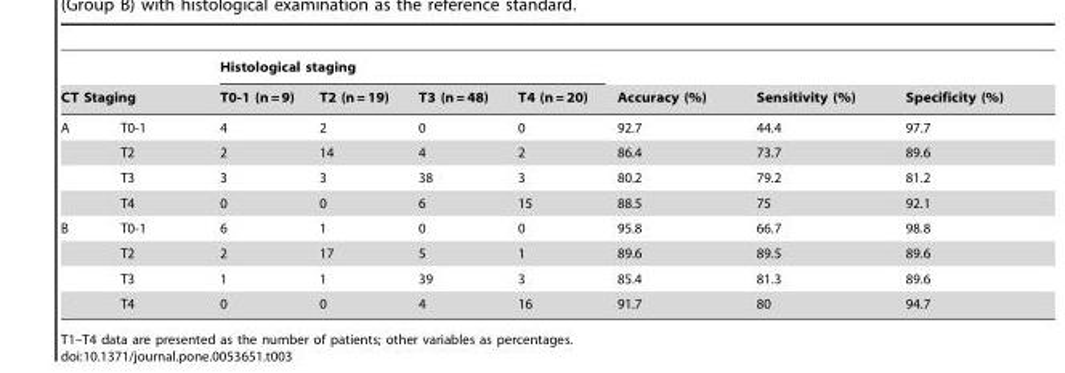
<table><thead><tr><td></td><td></td><td colspan="4">Histological staging</td><td rowspan="2">Accuracy (%)</td><td rowspan="2">Sensitivity (%)</td><td rowspan="2">Specificity (%)</td></tr><tr><td colspan="2">CT Staging</td><td>T0-1 (n = 9)</td><td>T2 (n = 19)</td><td>T3 (n = 48)</td><td>T4 (n = 20)</td></tr></thead><tbody><tr><td rowspan="4">A</td><td>T0-1</td><td>4</td><td>2</td><td>0</td><td>0</td><td>92.7</td><td>44.4</td><td>97.7</td></tr><tr><td>T2</td><td>2</td><td>14</td><td>4</td><td>2</td><td>86.4</td><td>73.7</td><td>89.6</td></tr><tr><td>T3</td><td>3</td><td>3</td><td>38</td><td>3</td><td>80.2</td><td>79.2</td><td>81.2</td></tr><tr><td>T4</td><td>0</td><td>0</td><td>6</td><td>15</td><td>88.5</td><td>75</td><td>92.1</td></tr><tr><td rowspan="4">B</td><td>T0-1</td><td>6</td><td>1</td><td>0</td><td>0</td><td>95.8</td><td>66.7</td><td>98.8</td></tr><tr><td>T2</td><td>2</td><td>17</td><td>5</td><td>1</td><td>89.6</td><td>89.5</td><td>89.6</td></tr><tr><td>T3</td><td>1</td><td>1</td><td>39</td><td>3</td><td>85.4</td><td>81.3</td><td>89.6</td></tr><tr><td>T4</td><td>0</td><td>0</td><td>4</td><td>16</td><td>91.7</td><td>80</td><td>94.7</td></tr></tbody></table>